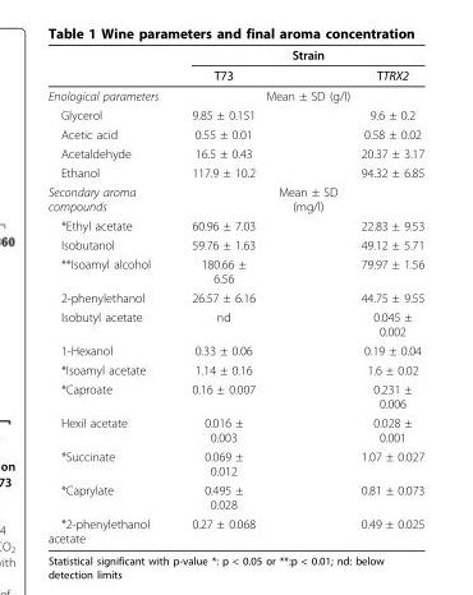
<table><thead><tr><td rowspan="2"></td><td colspan="3">Strain</td></tr><tr><td>T73</td><td></td><td>TTRX2</td></tr></thead><tbody><tr><td>Enological parameters</td><td></td><td>Mean ± SD (g/l)</td><td></td></tr><tr><td>Glycerol</td><td>9.85 ± 0.151</td><td></td><td>9.6 ± 0.2</td></tr><tr><td>Acetic acid</td><td>0.55 ± 0.01</td><td></td><td>0.58 ± 0.02</td></tr><tr><td>Acetaldehyde</td><td>16.5 ± 0.43</td><td></td><td>20.37 ± 3.17</td></tr><tr><td>Ethanol</td><td>117.9 ± 10.2</td><td></td><td>94.32 ± 6.85</td></tr><tr><td>Secondary aroma compounds</td><td></td><td>Mean ± SD (mg/l)</td><td></td></tr><tr><td>*Ethyl acetate</td><td>60.96 ± 7.03</td><td></td><td>22.83 ± 9.53</td></tr><tr><td>Isobutanol</td><td>59.76 ± 1.63</td><td></td><td>49.12 ± 5.71</td></tr><tr><td>**Isoamyl alcohol</td><td>180.66 ± 6.56</td><td></td><td>79.97 ± 1.56</td></tr><tr><td>2-phenylethanol</td><td>26.57 ± 6.16</td><td></td><td>44.75 ± 9.55</td></tr><tr><td>Isobutyl acetate</td><td>nd</td><td></td><td>0.045 ± 0.002</td></tr><tr><td>1-Hexanol</td><td>0.33 ± 0.06</td><td></td><td>0.19 ± 0.04</td></tr><tr><td>*Isoamyl acetate</td><td>1.14 ± 0.16</td><td></td><td>1.6 ± 0.02</td></tr><tr><td>*Caproate</td><td>0.16 ± 0.007</td><td></td><td>0.231 ± 0.006</td></tr><tr><td>Hexil acetate</td><td>0.016 ± 0.003</td><td></td><td>0.028 ± 0.001</td></tr><tr><td>*Succinate</td><td>0.069 ± 0.012</td><td></td><td>1.07 ± 0.027</td></tr><tr><td>*Caprylate</td><td>0.495 ± 0.028</td><td></td><td>0.81 ± 0.073</td></tr><tr><td>*2-phenylethanol acetate</td><td>0.27 ± 0.068</td><td></td><td>0.49 ± 0.025</td></tr></tbody></table>